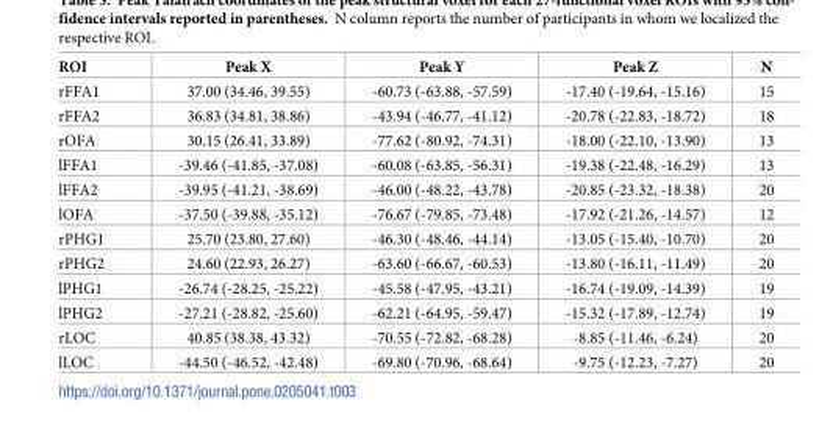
<table><thead><tr><td>ROI</td><td>Peak X</td><td>Peak Y</td><td>Peak Z</td><td>N</td></tr></thead><tbody><tr><td>rFFA1</td><td>37.00 (34.46, 39.55)</td><td>-60.73 (-63.88, -57.59)</td><td>-17.40 (-19.64, -15.16)</td><td>15</td></tr><tr><td>rFFA2</td><td>36.83 (34.81, 38.86)</td><td>-43.94 (-46.77, -41.12)</td><td>-20.78 (-22.83, -18.72)</td><td>18</td></tr><tr><td>rOFA</td><td>30.15 (26.41, 33.89)</td><td>-77.62 (-80.92, -74.31)</td><td>-18.00 (-22.10, -13.90)</td><td>13</td></tr><tr><td>lFFA1</td><td>-39.46 (-41.85, -37.08)</td><td>-60.08 (-63.85, -56.31)</td><td>-19.38 (-22.48, -16.29)</td><td>13</td></tr><tr><td>lFFA2</td><td>-39.95 (-41.21, -38.69)</td><td>-46.00 (-48.22, -43.78)</td><td>-20.85 (-23.32, -18.38)</td><td>20</td></tr><tr><td>lOFA</td><td>-37.50 (-39.88, -35.12)</td><td>-76.67 (-79.85, -73.48)</td><td>-17.92 (-21.26, -14.57)</td><td>12</td></tr><tr><td>rPHG1</td><td>25.70 (23.80, 27.60)</td><td>-46.30 (-48.46, -44.14)</td><td>-13.05 (-15.40, -10.70)</td><td>20</td></tr><tr><td>rPHG2</td><td>24.60 (22.93, 26.27)</td><td>-63.60 (-66.67, -60.53)</td><td>-13.80 (-16.11, -11.49)</td><td>20</td></tr><tr><td>lPHG1</td><td>-26.74 (-28.25, -25.22)</td><td>-45.58 (-47.95, -43.21)</td><td>-16.74 (-19.09, -14.39)</td><td>19</td></tr><tr><td>lPHG2</td><td>-27.21 (-28.82, -25.60)</td><td>-62.21 (-64.95, -59.47)</td><td>-15.32 (-17.89, -12.74)</td><td>19</td></tr><tr><td>rLOC</td><td>40.85 (38.38, 43.32)</td><td>-70.55 (-72.82, -68.28)</td><td>-8.85 (-11.46, -6.24)</td><td>20</td></tr><tr><td>lLOC</td><td>-44.50 (-46.52, -42.48)</td><td>-69.80 (-70.96, -68.64)</td><td>-9.75 (-12.23, -7.27)</td><td>20</td></tr></tbody></table>